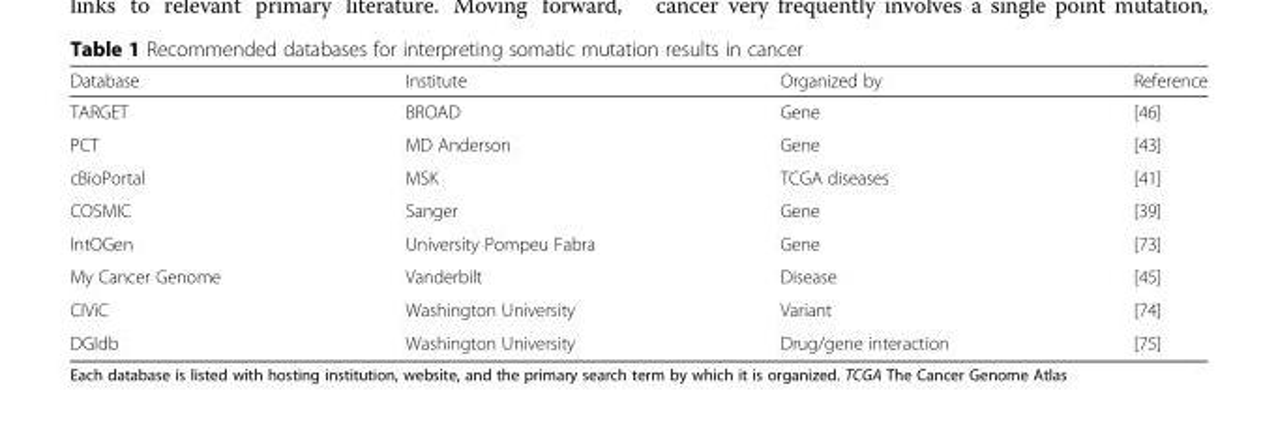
<table><thead><tr><td>Database</td><td>Institute</td><td>Organized by</td><td>Reference</td></tr></thead><tbody><tr><td>TARGET</td><td>BROAD</td><td>Gene</td><td>[46]</td></tr><tr><td>PCT</td><td>MD Anderson</td><td>Gene</td><td>[43]</td></tr><tr><td>cBioPortal</td><td>MSK</td><td>TCGA diseases</td><td>[41]</td></tr><tr><td>COSMIC</td><td>Sanger</td><td>Gene</td><td>[39]</td></tr><tr><td>IntOGen</td><td>University Pompeu Fabra</td><td>Gene</td><td>[73]</td></tr><tr><td>My Cancer Genome</td><td>Vanderbilt</td><td>Disease</td><td>[45]</td></tr><tr><td>CIViC</td><td>Washington University</td><td>Variant</td><td>[74]</td></tr><tr><td>DGIdb</td><td>Washington University</td><td>Drug/gene interaction</td><td>[75]</td></tr></tbody></table>